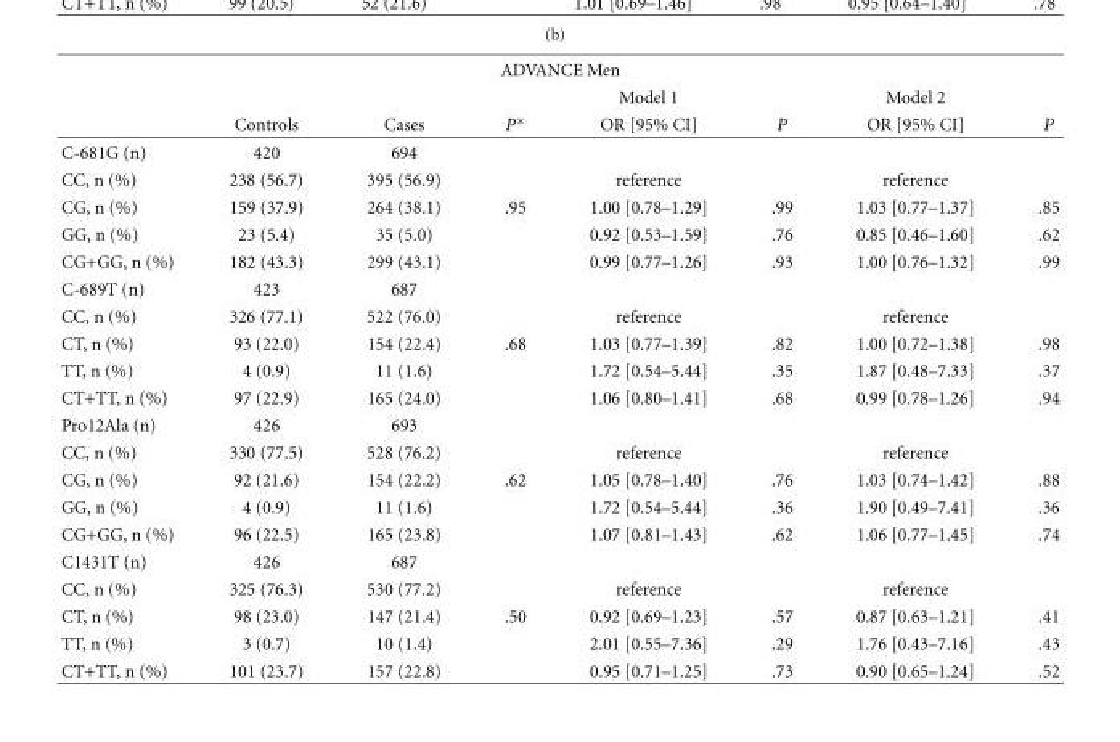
<table><thead><tr><td colspan="8">ADVANCE Men</td></tr><tr><td rowspan="2"></td><td rowspan="2">Controls</td><td rowspan="2">Cases</td><td rowspan="2">P∗</td><td rowspan="2">Model 1 OR [95% CI]</td><td rowspan="2">P</td><td rowspan="2">Model 2 OR [95% CI]</td><td rowspan="2">P</td></tr><tr></tr></thead><tbody><tr><td>C-681G (n)</td><td>420</td><td>694</td><td></td><td></td><td></td><td></td><td></td></tr><tr><td>CC, n (%)</td><td>238 (56.7)</td><td>395 (56.9)</td><td></td><td>reference</td><td></td><td>reference</td><td></td></tr><tr><td>CG, n (%)</td><td>159 (37.9)</td><td>264 (38.1)</td><td>.95</td><td>1.00 [0.78–1.29]</td><td>.99</td><td>1.03 [0.77–1.37]</td><td>.85</td></tr><tr><td>GG, n (%)</td><td>23 (5.4)</td><td>35 (5.0)</td><td></td><td>0.92 [0.53–1.59]</td><td>.76</td><td>0.85 [0.46–1.60]</td><td>.62</td></tr><tr><td>CG+GG, n (%)</td><td>182 (43.3)</td><td>299 (43.1)</td><td></td><td>0.99 [0.77–1.26]</td><td>.93</td><td>1.00 [0.76–1.32]</td><td>.99</td></tr><tr><td>C-689T (n)</td><td>423</td><td>687</td><td></td><td></td><td></td><td></td><td></td></tr><tr><td>CC, n (%)</td><td>326 (77.1)</td><td>522 (76.0)</td><td></td><td>reference</td><td></td><td>reference</td><td></td></tr><tr><td>CT, n (%)</td><td>93 (22.0)</td><td>154 (22.4)</td><td>.68</td><td>1.03 [0.77–1.39]</td><td>.82</td><td>1.00 [0.72–1.38]</td><td>.98</td></tr><tr><td>TT, n (%)</td><td>4 (0.9)</td><td>11 (1.6)</td><td></td><td>1.72 [0.54–5.44]</td><td>.35</td><td>1.87 [0.48–7.33]</td><td>.37</td></tr><tr><td>CT+TT, n (%)</td><td>97 (22.9)</td><td>165 (24.0)</td><td></td><td>1.06 [0.80–1.41]</td><td>.68</td><td>0.99 [0.78–1.26]</td><td>.94</td></tr><tr><td>Pro12Ala (n)</td><td>426</td><td>693</td><td></td><td></td><td></td><td></td><td></td></tr><tr><td>CC, n (%)</td><td>330 (77.5)</td><td>528 (76.2)</td><td></td><td>reference</td><td></td><td>reference</td><td></td></tr><tr><td>CG, n (%)</td><td>92 (21.6)</td><td>154 (22.2)</td><td>.62</td><td>1.05 [0.78–1.40]</td><td>.76</td><td>1.03 [0.74–1.42]</td><td>.88</td></tr><tr><td>GG, n (%)</td><td>4 (0.9)</td><td>11 (1.6)</td><td></td><td>1.72 [0.54–5.44]</td><td>.36</td><td>1.90 [0.49–7.41]</td><td>.36</td></tr><tr><td>CG+GG, n (%)</td><td>96 (22.5)</td><td>165 (23.8)</td><td></td><td>1.07 [0.81–1.43]</td><td>.62</td><td>1.06 [0.77–1.45]</td><td>.74</td></tr><tr><td>C1431T (n)</td><td>426</td><td>687</td><td></td><td></td><td></td><td></td><td></td></tr><tr><td>CC, n (%)</td><td>325 (76.3)</td><td>530 (77.2)</td><td></td><td>reference</td><td></td><td>reference</td><td></td></tr><tr><td>CT, n (%)</td><td>98 (23.0)</td><td>147 (21.4)</td><td>.50</td><td>0.92 [0.69–1.23]</td><td>.57</td><td>0.87 [0.63–1.21]</td><td>.41</td></tr><tr><td>TT, n (%)</td><td>3 (0.7)</td><td>10 (1.4)</td><td></td><td>2.01 [0.55–7.36]</td><td>.29</td><td>1.76 [0.43–7.16]</td><td>.43</td></tr><tr><td>CT+TT, n (%)</td><td>101 (23.7)</td><td>157 (22.8)</td><td></td><td>0.95 [0.71–1.25]</td><td>.73</td><td>0.90 [0.65–1.24]</td><td>.52</td></tr></tbody></table>